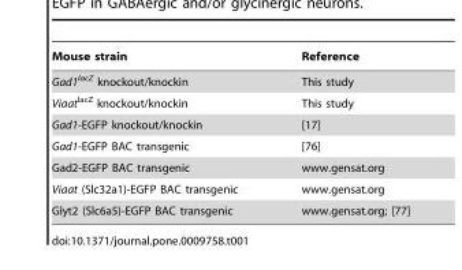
<table><thead><tr><td>Mouse strain</td><td>Reference</td></tr></thead><tbody><tr><td>Gad1<sup>lacZ</sup> knockout/knockin</td><td>This study</td></tr><tr><td>Viaat<sup>lacZ</sup> knockout/knockin</td><td>This study</td></tr><tr><td>Gad1-EGFP knockout/knockin</td><td>[17]</td></tr><tr><td>Gad1-EGFP BAC transgenic</td><td>[76]</td></tr><tr><td>Gad2-EGFP BAC transgenic</td><td>www.gensat.org</td></tr><tr><td>Viaat (Slc32a1)-EGFP BAC transgenic</td><td>www.gensat.org</td></tr><tr><td>Glyt2 (Slc6a5)-EGFP BAC transgenic</td><td>www.gensat.org; [77]</td></tr></tbody></table>